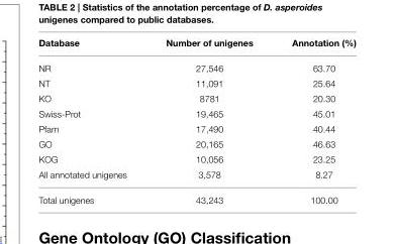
<table><thead><tr><td>Database</td><td>Number of unigenes</td><td>Annotation (%)</td></tr></thead><tbody><tr><td>NR</td><td>27,546</td><td>63.70</td></tr><tr><td>NT</td><td>11,091</td><td>25.64</td></tr><tr><td>KO</td><td>8781</td><td>20.30</td></tr><tr><td>Swiss-Prot</td><td>19,465</td><td>45.01</td></tr><tr><td>Pfam</td><td>17,490</td><td>40.44</td></tr><tr><td>GO</td><td>20,165</td><td>46.63</td></tr><tr><td>KOG</td><td>10,056</td><td>23.25</td></tr><tr><td>All annotated unigenes</td><td>3,578</td><td>8.27</td></tr><tr><td>Total unigenes</td><td>43,243</td><td>100.00</td></tr></tbody></table>